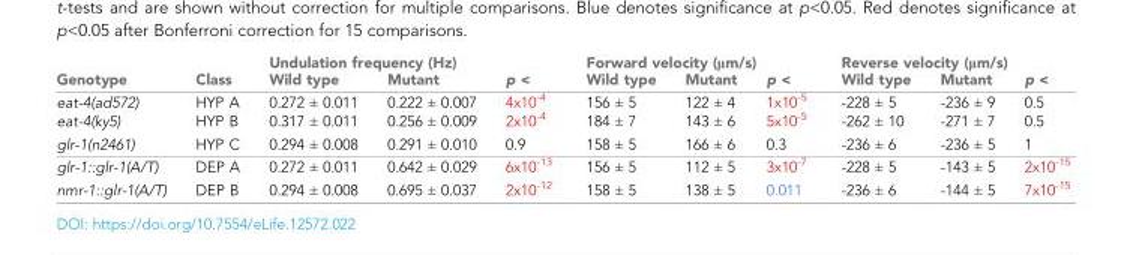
<table><thead><tr><td rowspan="2">Genotype</td><td rowspan="2">Class</td><td colspan="3">Undulation frequency (Hz)</td><td colspan="3">Forward velocity (μm/s)</td><td colspan="3">Reverse velocity (μm/s)</td></tr><tr><td>Wild type</td><td>Mutant</td><td>p &lt;</td><td>Wild type</td><td>Mutant</td><td>p &lt;</td><td>Wild type</td><td>Mutant</td><td>p &lt;</td></tr></thead><tbody><tr><td>eat-4(ad572)</td><td>HYP A</td><td>0.272 ± 0.011</td><td>0.222 ± 0.007</td><td>4x10<sup>-4</sup></td><td>156 ± 5</td><td>122 ± 4</td><td>1x10<sup>-5</sup></td><td>-228 ± 5</td><td>-236 ± 9</td><td>0.5</td></tr><tr><td>eat-4(ky5)</td><td>HYP B</td><td>0.317 ± 0.011</td><td>0.256 ± 0.009</td><td>2x10<sup>-4</sup></td><td>184 ± 7</td><td>143 ± 6</td><td>5x10<sup>-5</sup></td><td>-262 ± 10</td><td>-271 ± 7</td><td>0.5</td></tr><tr><td>glr-1(n2461)</td><td>HYP C</td><td>0.294 ± 0.008</td><td>0.291 ± 0.010</td><td>0.9</td><td>158 ± 5</td><td>166 ± 6</td><td>0.3</td><td>-236 ± 6</td><td>-236 ± 5</td><td>1</td></tr><tr><td>glr-1::glr-1(A/T)</td><td>DEP A</td><td>0.272 ± 0.011</td><td>0.642 ± 0.029</td><td>6x10<sup>-13</sup></td><td>156 ± 5</td><td>112 ± 5</td><td>3x10<sup>-7</sup></td><td>-228 ± 5</td><td>-143 ± 5</td><td>2x10<sup>-15</sup></td></tr><tr><td>nmr-1::glr-1(A/T)</td><td>DEP B</td><td>0.294 ± 0.008</td><td>0.695 ± 0.037</td><td>2x10<sup>-12</sup></td><td>158 ± 5</td><td>138 ± 5</td><td>0.011</td><td>-236 ± 6</td><td>-144 ± 5</td><td>7x10<sup>-15</sup></td></tr></tbody></table>